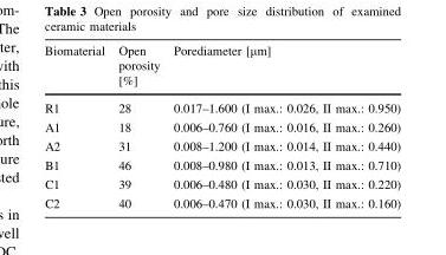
<table><thead><tr><td>Biomaterial</td><td>Open porosity [%]</td><td>Porediameter [µm]</td></tr></thead><tbody><tr><td>R1</td><td>28</td><td>0.017–1.600 (I max.: 0.026, II max.: 0.950)</td></tr><tr><td>A1</td><td>18</td><td>0.006–0.760 (I max.: 0.016, II max.: 0.260)</td></tr><tr><td>A2</td><td>31</td><td>0.008–1.200 (I max.: 0.014, II max.: 0.440)</td></tr><tr><td>B1</td><td>46</td><td>0.008–0.980 (I max.: 0.013, II max.: 0.710)</td></tr><tr><td>C1</td><td>39</td><td>0.006–0.480 (I max.: 0.030, II max.: 0.220)</td></tr><tr><td>C2</td><td>40</td><td>0.006–0.470 (I max.: 0.030, II max.: 0.160)</td></tr></tbody></table>